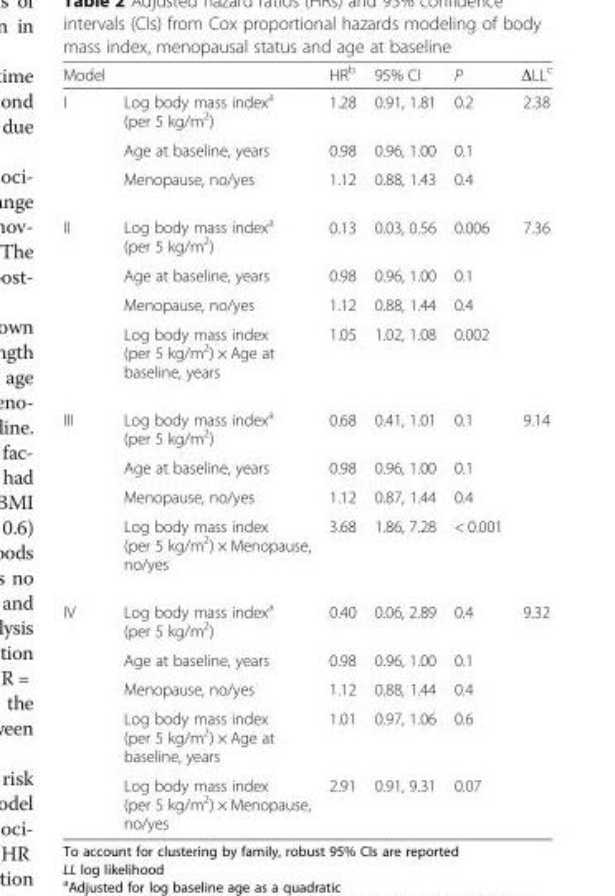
<table><thead><tr><td>Model</td><td></td><td>HR<sup>b</sup></td><td>95% CI</td><td>P</td><td>ΔLL<sup>c</sup></td></tr></thead><tbody><tr><td rowspan="3">I</td><td>Log body mass index<sup>a</sup> (per 5 kg/m<sup>2</sup>)</td><td>1.28</td><td>0.91, 1.81</td><td>0.2</td><td rowspan="3">2.38</td></tr><tr><td>Age at baseline, years</td><td>0.98</td><td>0.96, 1.00</td><td>0.1</td></tr><tr><td>Menopause, no/yes</td><td>1.12</td><td>0.88, 1.43</td><td>0.4</td></tr><tr><td rowspan="4">II</td><td>Log body mass index<sup>a</sup> (per 5 kg/m<sup>2</sup>)</td><td>0.13</td><td>0.03, 0.56</td><td>0.006</td><td rowspan="4">7.36</td></tr><tr><td>Age at baseline, years</td><td>0.98</td><td>0.96, 1.00</td><td>0.1</td></tr><tr><td>Menopause, no/yes</td><td>1.12</td><td>0.88, 1.44</td><td>0.4</td></tr><tr><td>Log body mass index (per 5 kg/m<sup>2</sup>) × Age at baseline, years</td><td>1.05</td><td>1.02, 1.08</td><td>0.002</td></tr><tr><td rowspan="4">III</td><td>Log body mass index<sup>a</sup> (per 5 kg/m<sup>2</sup>)</td><td>0.68</td><td>0.41, 1.01</td><td>0.1</td><td rowspan="4">9.14</td></tr><tr><td>Age at baseline, years</td><td>0.98</td><td>0.96, 1.00</td><td>0.1</td></tr><tr><td>Menopause, no/yes</td><td>1.12</td><td>0.87, 1.44</td><td>0.4</td></tr><tr><td>Log body mass index (per 5 kg/m<sup>2</sup>) × Menopause, no/yes</td><td>3.68</td><td>1.86, 7.28</td><td>&lt; 0.001</td></tr><tr><td rowspan="5">IV</td><td>Log body mass index<sup>a</sup> (per 5 kg/m<sup>2</sup>)</td><td>0.40</td><td>0.06, 2.89</td><td>0.4</td><td rowspan="5">9.32</td></tr><tr><td>Age at baseline, years</td><td>0.98</td><td>0.96, 1.00</td><td>0.1</td></tr><tr><td>Menopause, no/yes</td><td>1.12</td><td>0.88, 1.44</td><td>0.4</td></tr><tr><td>Log body mass index (per 5 kg/m<sup>2</sup>) × Age at baseline, years</td><td>1.01</td><td>0.97, 1.06</td><td>0.6</td></tr><tr><td>Log body mass index (per 5 kg/m<sup>2</sup>) × Menopause, no/yes</td><td>2.91</td><td>0.91, 9.31</td><td>0.07</td></tr></tbody></table>